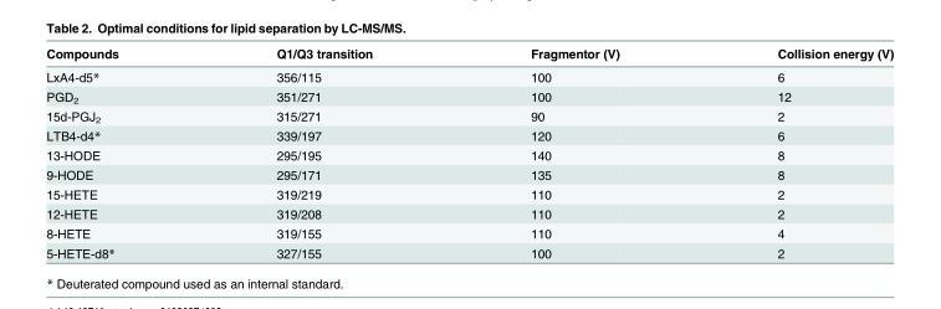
<table><thead><tr><td>Compounds</td><td>Q1/Q3 transition</td><td>Fragmentor (V)</td><td>Collision energy (V)</td></tr></thead><tbody><tr><td>LxA4-d5*</td><td>356/115</td><td>100</td><td>6</td></tr><tr><td>PGD<sub>2</sub></td><td>351/271</td><td>100</td><td>12</td></tr><tr><td>15d-PGJ<sub>2</sub></td><td>315/271</td><td>90</td><td>2</td></tr><tr><td>LTB4-d4*</td><td>339/197</td><td>120</td><td>6</td></tr><tr><td>13-HODE</td><td>295/195</td><td>140</td><td>8</td></tr><tr><td>9-HODE</td><td>295/171</td><td>135</td><td>8</td></tr><tr><td>15-HETE</td><td>319/219</td><td>110</td><td>2</td></tr><tr><td>12-HETE</td><td>319/208</td><td>110</td><td>2</td></tr><tr><td>8-HETE</td><td>319/155</td><td>110</td><td>4</td></tr><tr><td>5-HETE-d8*</td><td>327/155</td><td>100</td><td>2</td></tr></tbody></table>